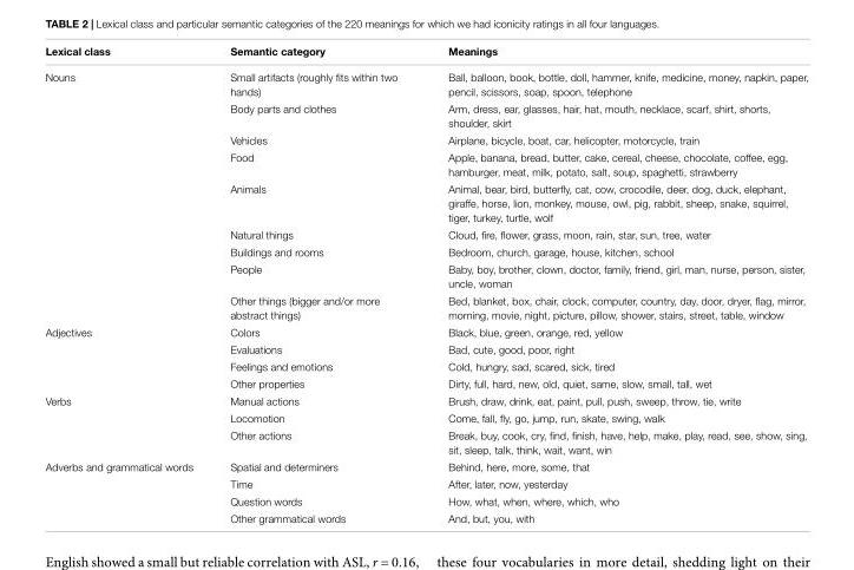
<table><thead><tr><td>Lexical class</td><td>Semantic category</td><td>Meanings</td></tr></thead><tbody><tr><td rowspan="9">Nouns</td><td>Small artifacts (roughly fits within two hands)</td><td>Ball, balloon, book, bottle, doll, hammer, knife, medicine, money, napkin, paper, pencil, scissors, soap, spoon, telephone</td></tr><tr><td>Body parts and clothes</td><td>Arm, dress, ear, glasses, hair, hat, mouth, necklace, scarf, shirt, shorts, shoulder, skirt</td></tr><tr><td>Vehicles</td><td>Airplane, bicycle, boat, car, helicopter, motorcycle, train</td></tr><tr><td>Food</td><td>Apple, banana, bread, butter, cake, cereal, cheese, chocolate, coffee, egg, hamburger, meat, milk, potato, salt, soup, spaghetti, strawberry</td></tr><tr><td>Animals</td><td>Animal, bear, bird, butterfly, cat, cow, crocodile, deer, dog, duck, elephant, giraffe, horse, lion, monkey, mouse, owl, pig, rabbit, sheep, snake, squirrel, tiger, turkey, turtle, wolf</td></tr><tr><td>Natural things</td><td>Cloud, fire, flower, grass, moon, rain, star, sun, tree, water</td></tr><tr><td>Buildings and rooms</td><td>Bedroom, church, garage, house, kitchen, school</td></tr><tr><td>People</td><td>Baby, boy, brother, clown, doctor, family, friend, girl, man, nurse, person, sister, uncle, woman</td></tr><tr><td>Other things (bigger and/or more abstract things)</td><td>Bed, blanket, box, chair, clock, computer, country, day, door, dryer, flag, mirror, morning, movie, night, picture, pillow, shower, stairs, street, table, window</td></tr><tr><td rowspan="4">Adjectives</td><td>Colors</td><td>Black, blue, green, orange, red, yellow</td></tr><tr><td>Evaluations</td><td>Bad, cute, good, poor, right</td></tr><tr><td>Feelings and emotions</td><td>Cold, hungry, sad, scared, sick, tired</td></tr><tr><td>Other properties</td><td>Dirty, full, hard, new, old, quiet, same, slow, small, tall, wet</td></tr><tr><td rowspan="3">Verbs</td><td>Manual actions</td><td>Brush, draw, drink, eat, paint, pull, push, sweep, throw, tie, write</td></tr><tr><td>Locomotion</td><td>Come, fall, fly, go, jump, run, skate, swing, walk</td></tr><tr><td>Other actions</td><td>Break, buy, cook, cry, find, finish, have, help, make, play, read, see, show, sing, sit, sleep, talk, think, wait, want, win</td></tr><tr><td rowspan="4">Adverbs and grammatical words</td><td>Spatial and determiners</td><td>Behind, here, more, some, that</td></tr><tr><td>Time</td><td>After, later, now, yesterday</td></tr><tr><td>Question words</td><td>How, what, when, where, which, who</td></tr><tr><td>Other grammatical words</td><td>And, but, you, with</td></tr></tbody></table>